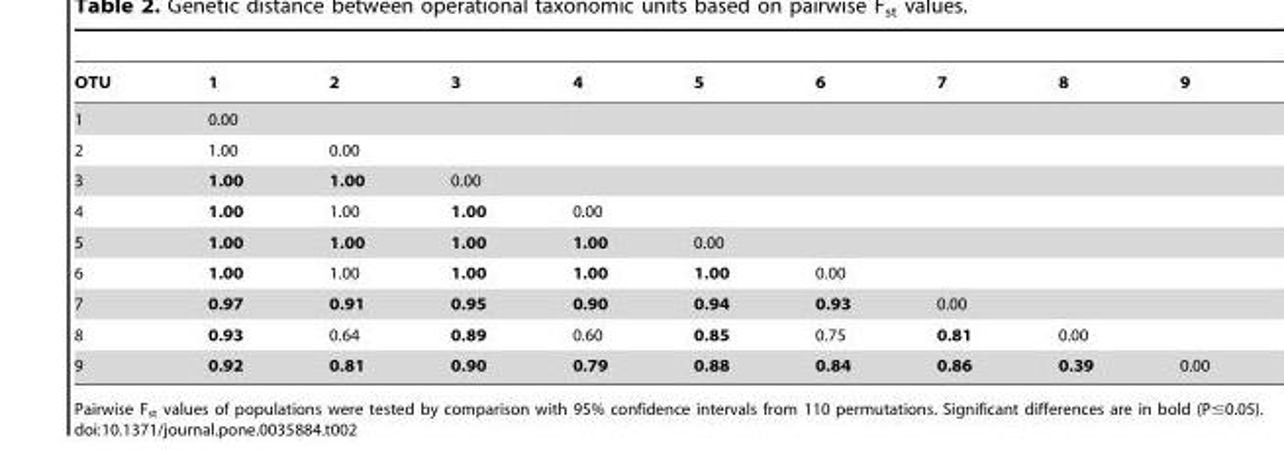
<table><thead><tr><td>OTU</td><td>1</td><td>2</td><td>3</td><td>4</td><td>5</td><td>6</td><td>7</td><td>8</td><td>9</td></tr></thead><tbody><tr><td>1</td><td>0.00</td><td></td><td></td><td></td><td></td><td></td><td></td><td></td><td></td></tr><tr><td>2</td><td>1.00</td><td>0.00</td><td></td><td></td><td></td><td></td><td></td><td></td><td></td></tr><tr><td>3</td><td>1.00</td><td>1.00</td><td>0.00</td><td></td><td></td><td></td><td></td><td></td><td></td></tr><tr><td>4</td><td>1.00</td><td>1.00</td><td>1.00</td><td>0.00</td><td></td><td></td><td></td><td></td><td></td></tr><tr><td>5</td><td>1.00</td><td>1.00</td><td>1.00</td><td>1.00</td><td>0.00</td><td></td><td></td><td></td><td></td></tr><tr><td>6</td><td>1.00</td><td>1.00</td><td>1.00</td><td>1.00</td><td>1.00</td><td>0.00</td><td></td><td></td><td></td></tr><tr><td>7</td><td>0.97</td><td>0.91</td><td>0.95</td><td>0.90</td><td>0.94</td><td>0.93</td><td>0.00</td><td></td><td></td></tr><tr><td>8</td><td>0.93</td><td>0.64</td><td>0.89</td><td>0.60</td><td>0.85</td><td>0.75</td><td>0.81</td><td>0.00</td><td></td></tr><tr><td>9</td><td>0.92</td><td>0.81</td><td>0.90</td><td>0.79</td><td>0.88</td><td>0.84</td><td>0.86</td><td>0.39</td><td>0.00</td></tr></tbody></table>